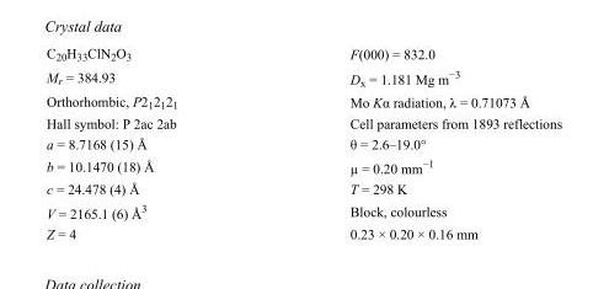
<table><tbody><tr><td>C<sub>20</sub>H<sub>33</sub>ClN<sub>2</sub>O<sub>3</sub></td><td>F(000) = 832.0</td></tr><tr><td>M<sub>r</sub> = 384.93</td><td>D<sub>x</sub> = 1.181 Mg m<sup>−3</sup></td></tr><tr><td>Orthorhombic, P2<sub>1</sub>2<sub>1</sub>2<sub>1</sub></td><td>Mo Kα radiation, λ = 0.71073 Å</td></tr><tr><td>Hall symbol: P 2ac 2ab</td><td>Cell parameters from 1893 reflections</td></tr><tr><td>a = 8.7168 (15) Å</td><td>θ = 2.6–19.0°</td></tr><tr><td>b = 10.1470 (18) Å</td><td>µ = 0.20 mm<sup>−1</sup></td></tr><tr><td>c = 24.478 (4) Å</td><td>T = 298 K</td></tr><tr><td>V = 2165.1 (6) Å<sup>3</sup></td><td>Block, colourless</td></tr><tr><td>Z = 4</td><td>0.23 × 0.20 × 0.16 mm</td></tr></tbody></table>